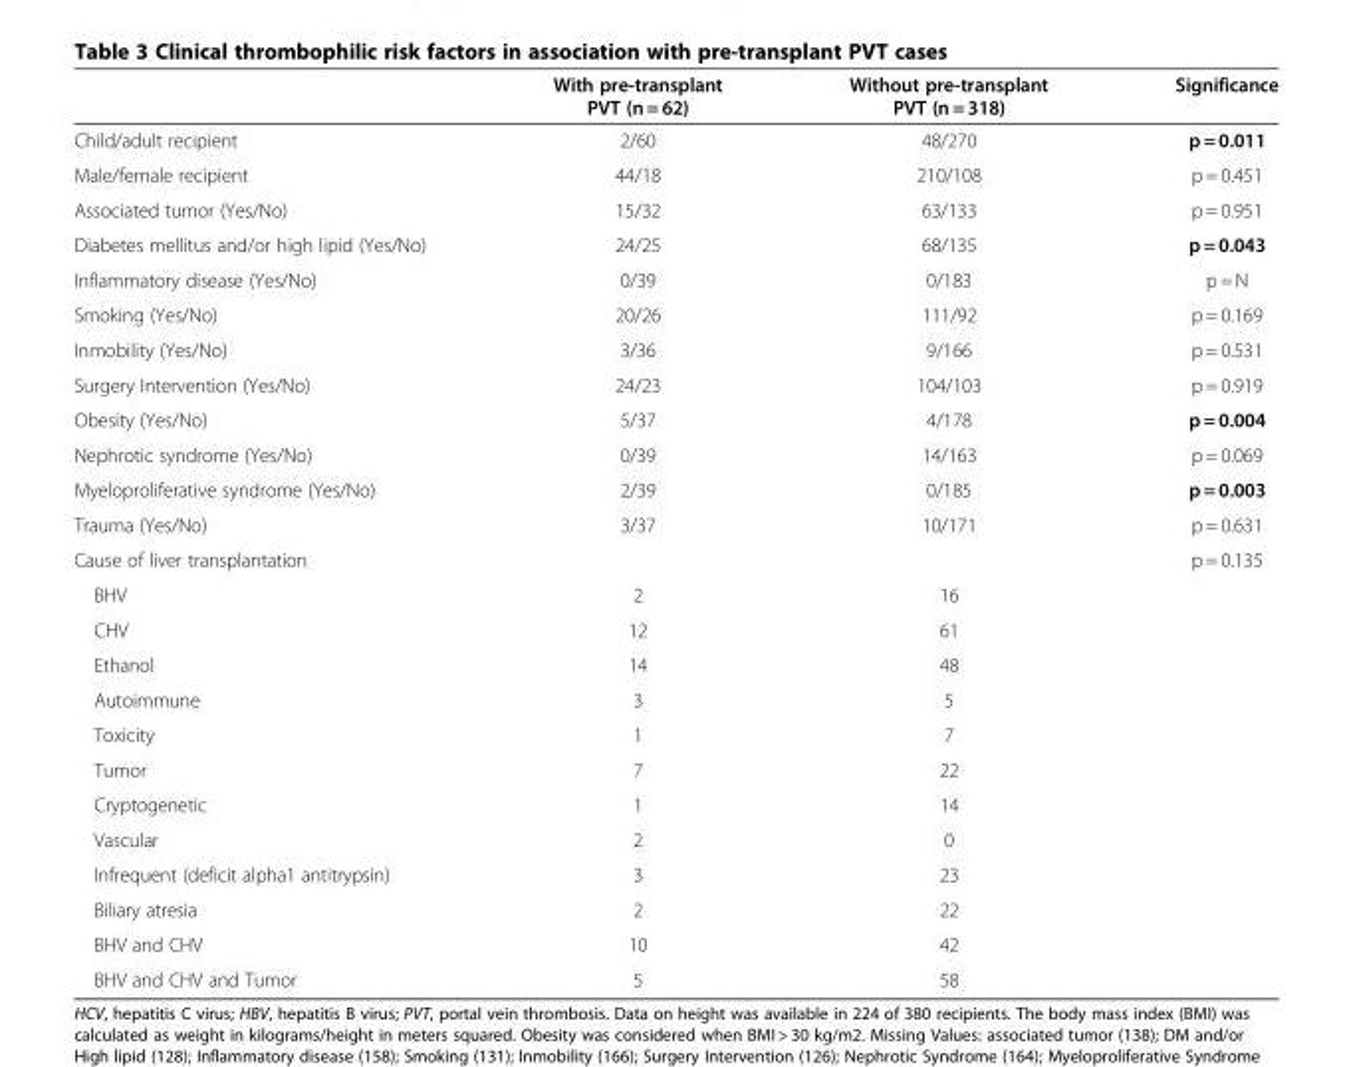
<table><thead><tr><td></td><td>With pre-transplant PVT (n = 62)</td><td>Without pre-transplant PVT (n = 318)</td><td>Significance</td></tr></thead><tbody><tr><td>Child/adult recipient</td><td>2/60</td><td>48/270</td><td>p = 0.011</td></tr><tr><td>Male/female recipient</td><td>44/18</td><td>210/108</td><td>p = 0.451</td></tr><tr><td>Associated tumor (Yes/No)</td><td>15/32</td><td>63/133</td><td>p = 0.951</td></tr><tr><td>Diabetes mellitus and/or high lipid (Yes/No)</td><td>24/25</td><td>68/135</td><td>p = 0.043</td></tr><tr><td>Inflammatory disease (Yes/No)</td><td>0/39</td><td>0/183</td><td>p = N</td></tr><tr><td>Smoking (Yes/No)</td><td>20/26</td><td>111/92</td><td>p = 0.169</td></tr><tr><td>Inmobility (Yes/No)</td><td>3/36</td><td>9/166</td><td>p = 0.531</td></tr><tr><td>Surgery Intervention (Yes/No)</td><td>24/23</td><td>104/103</td><td>p = 0.919</td></tr><tr><td>Obesity (Yes/No)</td><td>5/37</td><td>4/178</td><td>p = 0.004</td></tr><tr><td>Nephrotic syndrome (Yes/No)</td><td>0/39</td><td>14/163</td><td>p = 0.069</td></tr><tr><td>Myeloproliferative syndrome (Yes/No)</td><td>2/39</td><td>0/185</td><td>p = 0.003</td></tr><tr><td>Trauma (Yes/No)</td><td>3/37</td><td>10/171</td><td>p = 0.631</td></tr><tr><td>Cause of liver transplantation</td><td></td><td></td><td>p = 0.135</td></tr><tr><td>BHV</td><td>2</td><td>16</td><td></td></tr><tr><td>CHV</td><td>12</td><td>61</td><td></td></tr><tr><td>Ethanol</td><td>14</td><td>48</td><td></td></tr><tr><td>Autoimmune</td><td>3</td><td>5</td><td></td></tr><tr><td>Toxicity</td><td>1</td><td>7</td><td></td></tr><tr><td>Tumor</td><td>7</td><td>22</td><td></td></tr><tr><td>Cryptogenetic</td><td>1</td><td>14</td><td></td></tr><tr><td>Vascular</td><td>2</td><td>0</td><td></td></tr><tr><td>Infrequent (deficit alpha1 antitrypsin)</td><td>3</td><td>23</td><td></td></tr><tr><td>Biliary atresia</td><td>2</td><td>22</td><td></td></tr><tr><td>BHV and CHV</td><td>10</td><td>42</td><td></td></tr><tr><td>BHV and CHV and Tumor</td><td>5</td><td>58</td><td></td></tr></tbody></table>